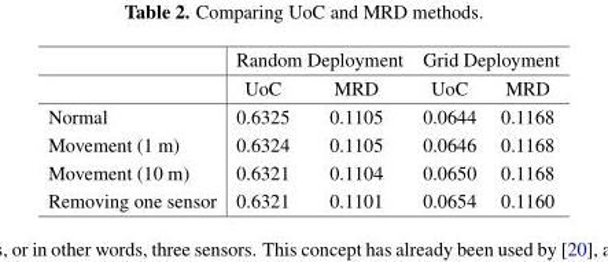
<table><thead><tr><td rowspan="2"></td><td colspan="2">Random Deployment</td><td colspan="2">Grid Deployment</td></tr><tr><td>UoC</td><td>MRD</td><td>UoC</td><td>MRD</td></tr></thead><tbody><tr><td>Normal</td><td>0.6325</td><td>0.1105</td><td>0.0644</td><td>0.1168</td></tr><tr><td>Movement (1 m)</td><td>0.6324</td><td>0.1105</td><td>0.0646</td><td>0.1168</td></tr><tr><td>Movement (10 m)</td><td>0.6321</td><td>0.1104</td><td>0.0650</td><td>0.1168</td></tr><tr><td>Removing one sensor</td><td>0.6321</td><td>0.1101</td><td>0.0654</td><td>0.1160</td></tr></tbody></table>